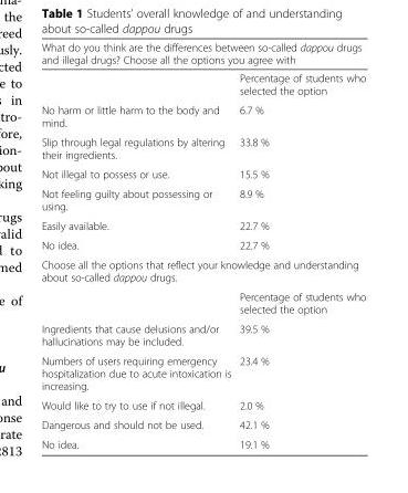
<table><thead><tr><td colspan="2">What do you think are the differences between so-called dappou drugs and illegal drugs? Choose all the options you agree with</td></tr><tr><td></td><td>Percentage of students who selected the option</td></tr></thead><tbody><tr><td>No harm or little harm to the body and mind.</td><td>6.7 %</td></tr><tr><td>Slip through legal regulations by altering their ingredients.</td><td>33.8 %</td></tr><tr><td>Not illegal to possess or use.</td><td>15.5 %</td></tr><tr><td>Not feeling guilty about possessing or using.</td><td>8.9 %</td></tr><tr><td>Easily available.</td><td>22.7 %</td></tr><tr><td>No idea.</td><td>22.7 %</td></tr><tr><td colspan="2">Choose all the options that reflect your knowledge and understanding about so-called dappou drugs.</td></tr><tr><td></td><td>Percentage of students who selected the option</td></tr><tr><td>Ingredients that cause delusions and/or hallucinations may be included.</td><td>39.5 %</td></tr><tr><td>Numbers of users requiring emergency hospitalization due to acute intoxication is increasing.</td><td>23.4 %</td></tr><tr><td>Would like to try to use if not illegal.</td><td>2.0 %</td></tr><tr><td>Dangerous and should not be used.</td><td>42.1 %</td></tr><tr><td>No idea.</td><td>19.1 %</td></tr></tbody></table>